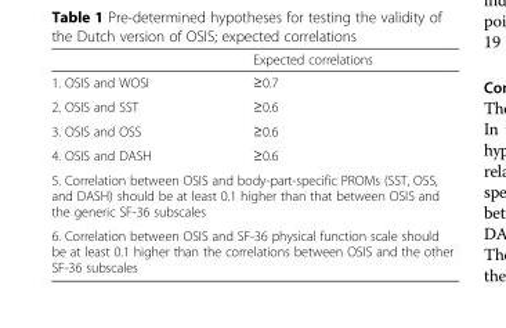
<table><thead><tr><td></td><td>Expected correlations</td></tr></thead><tbody><tr><td>1. OSIS and WOSI</td><td>≥0.7</td></tr><tr><td>2. OSIS and SST</td><td>≥0.6</td></tr><tr><td>3. OSIS and OSS</td><td>≥0.6</td></tr><tr><td>4. OSIS and DASH</td><td>≥0.6</td></tr><tr><td colspan="2">5. Correlation between OSIS and body-part-specific PROMs (SST, OSS, and DASH) should be at least 0.1 higher than that between OSIS and the generic SF-36 subscales</td></tr><tr><td colspan="2">6. Correlation between OSIS and SF-36 physical function scale should be at least 0.1 higher than the correlations between OSIS and the other SF-36 subscales</td></tr></tbody></table>